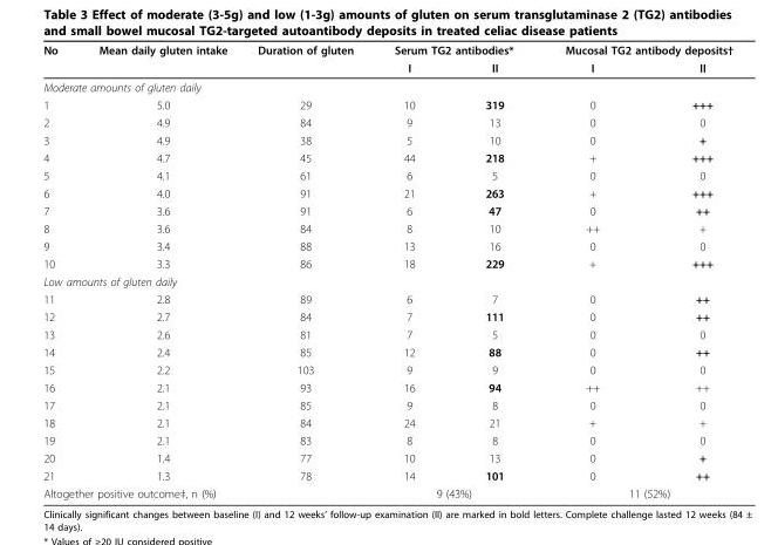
<table><thead><tr><td rowspan="2">No</td><td rowspan="2">Mean daily gluten intake</td><td rowspan="2">Duration of gluten</td><td colspan="2">Serum TG2 antibodies*</td><td colspan="2">Mucosal TG2 antibody deposits†</td></tr><tr><td>I</td><td>II</td><td>I</td><td>II</td></tr></thead><tbody><tr><td colspan="7">Moderate amounts of gluten daily</td></tr><tr><td>1</td><td>5.0</td><td>29</td><td>10</td><td>319</td><td>0</td><td>+++</td></tr><tr><td>2</td><td>4.9</td><td>84</td><td>9</td><td>13</td><td>0</td><td>0</td></tr><tr><td>3</td><td>4.9</td><td>38</td><td>5</td><td>10</td><td>0</td><td>+</td></tr><tr><td>4</td><td>4.7</td><td>45</td><td>44</td><td>218</td><td>+</td><td>+++</td></tr><tr><td>5</td><td>4.1</td><td>61</td><td>6</td><td>5</td><td>0</td><td>0</td></tr><tr><td>6</td><td>4.0</td><td>91</td><td>21</td><td>263</td><td>+</td><td>+++</td></tr><tr><td>7</td><td>3.6</td><td>91</td><td>6</td><td>47</td><td>0</td><td>++</td></tr><tr><td>8</td><td>3.6</td><td>84</td><td>8</td><td>10</td><td>++</td><td>+</td></tr><tr><td>9</td><td>3.4</td><td>88</td><td>13</td><td>16</td><td>0</td><td>0</td></tr><tr><td>10</td><td>3.3</td><td>86</td><td>18</td><td>229</td><td>+</td><td>+++</td></tr><tr><td colspan="7">Low amounts of gluten daily</td></tr><tr><td>11</td><td>2.8</td><td>89</td><td>6</td><td>7</td><td>0</td><td>++</td></tr><tr><td>12</td><td>2.7</td><td>84</td><td>7</td><td>111</td><td>0</td><td>++</td></tr><tr><td>13</td><td>2.6</td><td>81</td><td>7</td><td>5</td><td>0</td><td>0</td></tr><tr><td>14</td><td>2.4</td><td>85</td><td>12</td><td>88</td><td>0</td><td>++</td></tr><tr><td>15</td><td>2.2</td><td>103</td><td>9</td><td>9</td><td>0</td><td>0</td></tr><tr><td>16</td><td>2.1</td><td>93</td><td>16</td><td>94</td><td>++</td><td>++</td></tr><tr><td>17</td><td>2.1</td><td>85</td><td>9</td><td>8</td><td>0</td><td>0</td></tr><tr><td>18</td><td>2.1</td><td>84</td><td>24</td><td>21</td><td>+</td><td>+</td></tr><tr><td>19</td><td>2.1</td><td>83</td><td>8</td><td>8</td><td>0</td><td>0</td></tr><tr><td>20</td><td>1.4</td><td>77</td><td>10</td><td>13</td><td>0</td><td>+</td></tr><tr><td>21</td><td>1.3</td><td>78</td><td>14</td><td>101</td><td>0</td><td>++</td></tr><tr><td colspan="3">Altogether positive outcome‡, n (%)</td><td colspan="2">9 (43%)</td><td colspan="2">11 (52%)</td></tr></tbody></table>